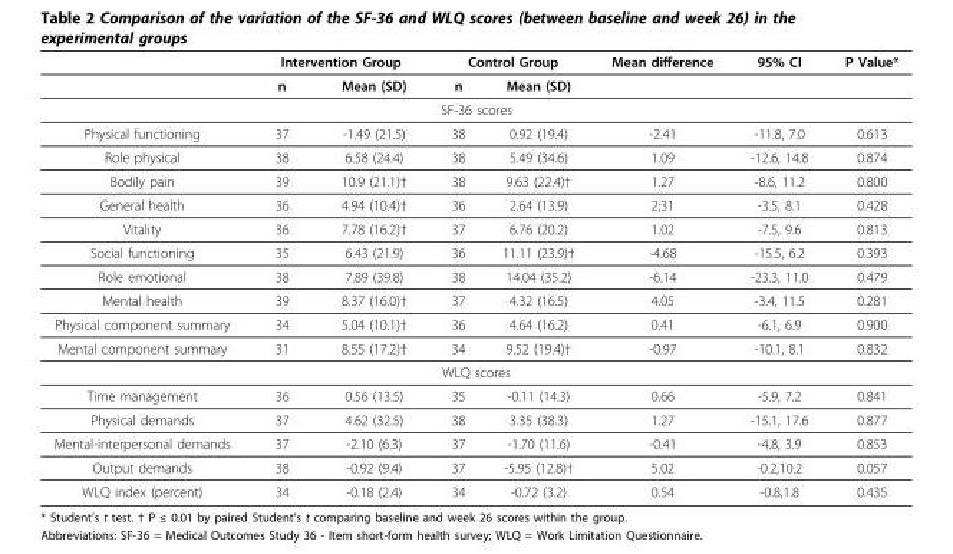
<table><thead><tr><td rowspan="2"></td><td colspan="2">Intervention Group</td><td colspan="2">Control Group</td><td rowspan="2">Mean difference</td><td rowspan="2">95% CI</td><td rowspan="2">P Value*</td></tr><tr><td>n</td><td>Mean (SD)</td><td>n</td><td>Mean (SD)</td></tr></thead><tbody><tr><td colspan="8">SF-36 scores</td></tr><tr><td>Physical functioning</td><td>37</td><td>-1.49 (21.5)</td><td>38</td><td>0.92 (19.4)</td><td>-2.41</td><td>-11.8, 7.0</td><td>0.613</td></tr><tr><td>Role physical</td><td>38</td><td>6.58 (24.4)</td><td>38</td><td>5.49 (34.6)</td><td>1.09</td><td>-12.6, 14.8</td><td>0.874</td></tr><tr><td>Bodily pain</td><td>39</td><td>10.9 (21.1)†</td><td>38</td><td>9.63 (22.4)†</td><td>1.27</td><td>-8.6, 11.2</td><td>0.800</td></tr><tr><td>General health</td><td>36</td><td>4.94 (10.4)†</td><td>36</td><td>2.64 (13.9)</td><td>2;31</td><td>-3.5, 8.1</td><td>0.428</td></tr><tr><td>Vitality</td><td>36</td><td>7.78 (16.2)†</td><td>37</td><td>6.76 (20.2)</td><td>1.02</td><td>-7.5, 9.6</td><td>0.813</td></tr><tr><td>Social functioning</td><td>35</td><td>6.43 (21.9)</td><td>36</td><td>11.11 (23.9)†</td><td>-4.68</td><td>-15.5, 6.2</td><td>0.393</td></tr><tr><td>Role emotional</td><td>38</td><td>7.89 (39.8)</td><td>38</td><td>14.04 (35.2)</td><td>-6.14</td><td>-23.3, 11.0</td><td>0.479</td></tr><tr><td>Mental health</td><td>39</td><td>8.37 (16.0)†</td><td>37</td><td>4.32 (16.5)</td><td>4.05</td><td>-3.4, 11.5</td><td>0.281</td></tr><tr><td>Physical component summary</td><td>34</td><td>5.04 (10.1)†</td><td>36</td><td>4.64 (16.2)</td><td>0.41</td><td>-6.1, 6.9</td><td>0.900</td></tr><tr><td>Mental component summary</td><td>31</td><td>8.55 (17.2)†</td><td>34</td><td>9.52 (19.4)†</td><td>-0.97</td><td>-10.1, 8.1</td><td>0.832</td></tr><tr><td colspan="8">WLQ scores</td></tr><tr><td>Time management</td><td>36</td><td>0.56 (13.5)</td><td>35</td><td>-0.11 (14.3)</td><td>0.66</td><td>-5.9, 7.2</td><td>0.841</td></tr><tr><td>Physical demands</td><td>37</td><td>4.62 (32.5)</td><td>38</td><td>3.35 (38.3)</td><td>1.27</td><td>-15.1, 17.6</td><td>0.877</td></tr><tr><td>Mental-interpersonal demands</td><td>37</td><td>-2.10 (6.3)</td><td>37</td><td>-1.70 (11.6)</td><td>-0.41</td><td>-4.8, 3.9</td><td>0.853</td></tr><tr><td>Output demands</td><td>38</td><td>-0.92 (9.4)</td><td>37</td><td>-5.95 (12.8)†</td><td>5.02</td><td>-0.2,10.2</td><td>0.057</td></tr><tr><td>WLQ index (percent)</td><td>34</td><td>-0.18 (2.4)</td><td>34</td><td>-0.72 (3.2)</td><td>0.54</td><td>-0.8,1.8</td><td>0.435</td></tr></tbody></table>